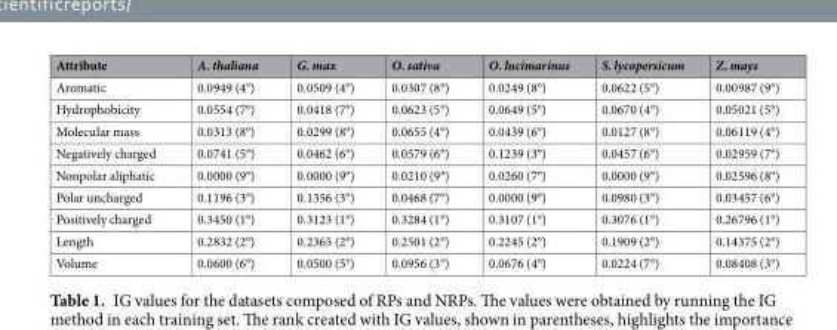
<table><thead><tr><td>Attribute</td><td>A. thaliana</td><td>G. max</td><td>O. sativa</td><td>O. lucimarinus</td><td>S. lycopersicum</td><td>Z. mays</td></tr></thead><tbody><tr><td>Aromatic</td><td>0.0949 (4°)</td><td>0.0509 (4°)</td><td>0.0307 (8°)</td><td>0.0249 (8°)</td><td>0.0622 (5°)</td><td>0.00987 (9°)</td></tr><tr><td>Hydrophobicity</td><td>0.0554 (7°)</td><td>0.0418 (7°)</td><td>0.0623 (5°)</td><td>0.0649 (5°)</td><td>0.0670 (4°)</td><td>0.05021 (5°)</td></tr><tr><td>Molecular mass</td><td>0.0313 (8°)</td><td>0.0299 (8°)</td><td>0.0655 (4°)</td><td>0.0439 (6°)</td><td>0.0127 (8°)</td><td>0.06119 (4°)</td></tr><tr><td>Negatively charged</td><td>0.0741 (5°)</td><td>0.0462 (6°)</td><td>0.0579 (6°)</td><td>0.1239 (3°)</td><td>0.0457 (6°)</td><td>0.02959 (7°)</td></tr><tr><td>Nonpolar aliphatic</td><td>0.0000 (9°)</td><td>0.0000 (9°)</td><td>0.0210 (9°)</td><td>0.0260 (7°)</td><td>0.0000 (9°)</td><td>0.02596 (8°)</td></tr><tr><td>Polar uncharged</td><td>0.1196 (3°)</td><td>0.1356 (3°)</td><td>0.0468 (7°)</td><td>0.0000 (9°)</td><td>0.0980 (3°)</td><td>0.03457 (6°)</td></tr><tr><td>Positively charged</td><td>0.3450 (1°)</td><td>0.3123 (1°)</td><td>0.3284 (1°)</td><td>0.3107 (1°)</td><td>0.3076 (1°)</td><td>0.26796 (1°)</td></tr><tr><td>Length</td><td>0.2832 (2°)</td><td>0.2365 (2°)</td><td>0.2501 (2°)</td><td>0.2245 (2°)</td><td>0.1909 (2°)</td><td>0.14375 (2°)</td></tr><tr><td>Volume</td><td>0.0600 (6°)</td><td>0.0500 (5°)</td><td>0.0956 (3°)</td><td>0.0676 (4°)</td><td>0.0224 (7°)</td><td>0.08408 (3°)</td></tr></tbody></table>